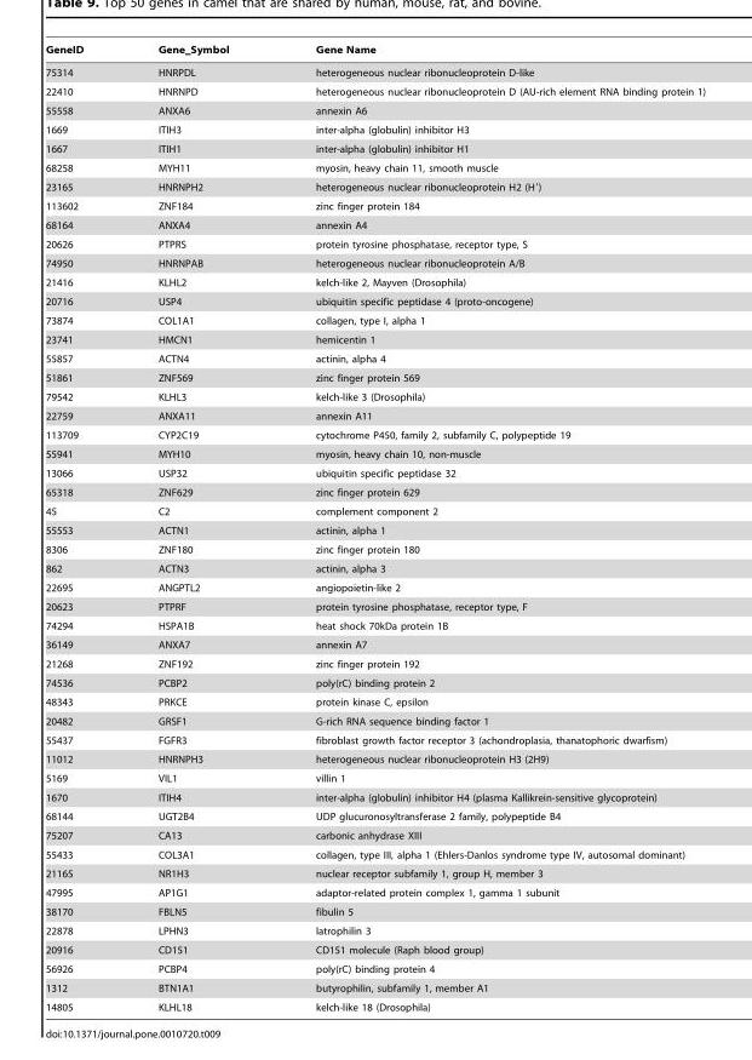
<table><thead><tr><td>GeneID</td><td>Gene__Symbol</td><td>Gene Name</td></tr></thead><tbody><tr><td>75314</td><td>HNRPDL</td><td>heterogeneous nuclear ribonucleoprotein D-like</td></tr><tr><td>22410</td><td>HNRNPD</td><td>heterogeneous nuclear ribonucleoprotein D (AU-rich element RNA binding protein 1)</td></tr><tr><td>55558</td><td>ANXA6</td><td>annexin A6</td></tr><tr><td>1669</td><td>ITIH3</td><td>inter-alpha (globulin) inhibitor H3</td></tr><tr><td>1667</td><td>ITIH1</td><td>inter-alpha (globulin) inhibitor H1</td></tr><tr><td>68258</td><td>MYH11</td><td>myosin, heavy chain 11, smooth muscle</td></tr><tr><td>23165</td><td>HNRNPH2</td><td>heterogeneous nuclear ribonucleoprotein H2 (H′)</td></tr><tr><td>113602</td><td>ZNF184</td><td>zinc finger protein 184</td></tr><tr><td>68164</td><td>ANXA4</td><td>annexin A4</td></tr><tr><td>20626</td><td>PTPRS</td><td>protein tyrosine phosphatase, receptor type, S</td></tr><tr><td>74950</td><td>HNRNPAB</td><td>heterogeneous nuclear ribonucleoprotein A/B</td></tr><tr><td>21416</td><td>KLHL2</td><td>kelch-like 2, Mayven (Drosophila)</td></tr><tr><td>20716</td><td>USP4</td><td>ubiquitin specific peptidase 4 (proto-oncogene)</td></tr><tr><td>73874</td><td>COL1A1</td><td>collagen, type I, alpha 1</td></tr><tr><td>23741</td><td>HMCN1</td><td>hemicentin 1</td></tr><tr><td>55857</td><td>ACTN4</td><td>actinin, alpha 4</td></tr><tr><td>51861</td><td>ZNF569</td><td>zinc finger protein 569</td></tr><tr><td>79542</td><td>KLHL3</td><td>kelch-like 3 (Drosophila)</td></tr><tr><td>22759</td><td>ANXA11</td><td>annexin A11</td></tr><tr><td>113709</td><td>CYP2C19</td><td>cytochrome P450, family 2, subfamily C, polypeptide 19</td></tr><tr><td>55941</td><td>MYH10</td><td>myosin, heavy chain 10, non-muscle</td></tr><tr><td>13066</td><td>USP32</td><td>ubiquitin specific peptidase 32</td></tr><tr><td>65318</td><td>ZNF629</td><td>zinc finger protein 629</td></tr><tr><td>45</td><td>C2</td><td>complement component 2</td></tr><tr><td>55553</td><td>ACTN1</td><td>actinin, alpha 1</td></tr><tr><td>8306</td><td>ZNF180</td><td>zinc finger protein 180</td></tr><tr><td>862</td><td>ACTN3</td><td>actinin, alpha 3</td></tr><tr><td>22695</td><td>ANGPTL2</td><td>angiopoietin-like 2</td></tr><tr><td>20623</td><td>PTPRF</td><td>protein tyrosine phosphatase, receptor type, F</td></tr><tr><td>74294</td><td>HSPA1B</td><td>heat shock 70kDa protein 1B</td></tr><tr><td>36149</td><td>ANXA7</td><td>annexin A7</td></tr><tr><td>21268</td><td>ZNF192</td><td>zinc finger protein 192</td></tr><tr><td>74536</td><td>PCBP2</td><td>poly(rC) binding protein 2</td></tr><tr><td>48343</td><td>PRKCE</td><td>protein kinase C, epsilon</td></tr><tr><td>20482</td><td>GRSF1</td><td>G-rich RNA sequence binding factor 1</td></tr><tr><td>55437</td><td>FGFR3</td><td>fibroblast growth factor receptor 3 (achondroplasia, thanatophoric dwarfism)</td></tr><tr><td>11012</td><td>HNRNPH3</td><td>heterogeneous nuclear ribonucleoprotein H3 (2H9)</td></tr><tr><td>5169</td><td>VIL1</td><td>villin 1</td></tr><tr><td>1670</td><td>ITIH4</td><td>inter-alpha (globulin) inhibitor H4 (plasma Kallikrein-sensitive glycoprotein)</td></tr><tr><td>68144</td><td>UGT2B4</td><td>UDP glucuronosyltransferase 2 family, polypeptide B4</td></tr><tr><td>75207</td><td>CA13</td><td>carbonic anhydrase XIII</td></tr><tr><td>55433</td><td>COL3A1</td><td>collagen, type III, alpha 1 (Ehlers-Danlos syndrome type IV, autosomal dominant)</td></tr><tr><td>21165</td><td>NR1H3</td><td>nuclear receptor subfamily 1, group H, member 3</td></tr><tr><td>47995</td><td>AP1G1</td><td>adaptor-related protein complex 1, gamma 1 subunit</td></tr><tr><td>38170</td><td>FBLN5</td><td>fibulin 5</td></tr><tr><td>22878</td><td>LPHN3</td><td>latrophilin 3</td></tr><tr><td>20916</td><td>CD151</td><td>CD151 molecule (Raph blood group)</td></tr><tr><td>56926</td><td>PCBP4</td><td>poly(rC) binding protein 4</td></tr><tr><td>1312</td><td>BTN1A1</td><td>butyrophilin, subfamily 1, member A1</td></tr><tr><td>14805</td><td>KLHL18</td><td>kelch-like 18 (Drosophila)</td></tr></tbody></table>